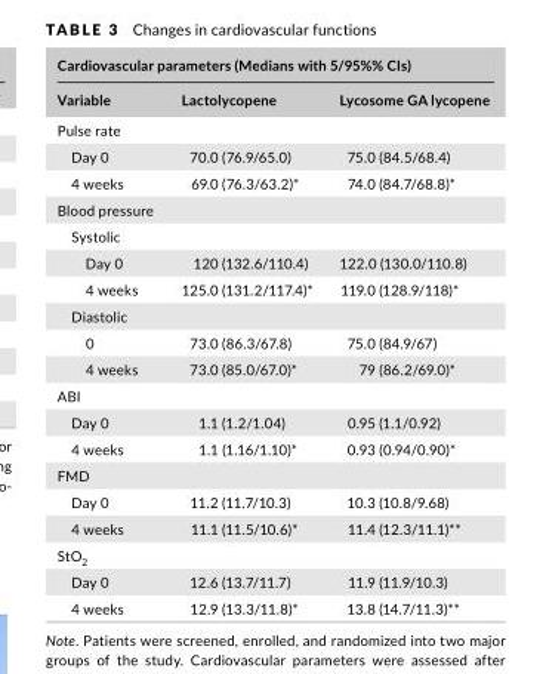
<table><thead><tr><td colspan="3">Cardiovascular parameters (Medians with 5/95%% CIs)</td></tr><tr><td>Variable</td><td>Lactolycopene</td><td>Lycosome GA lycopene</td></tr></thead><tbody><tr><td colspan="3">Pulse rate</td></tr><tr><td>Day 0</td><td>70.0 (76.9/65.0)</td><td>75.0 (84.5/68.4)</td></tr><tr><td>4 weeks</td><td>69.0 (76.3/63.2)*</td><td>74.0 (84.7/68.8)*</td></tr><tr><td colspan="3">Blood pressure</td></tr><tr><td colspan="3">Systolic</td></tr><tr><td>Day 0</td><td>120 (132.6/110.4)</td><td>122.0 (130.0/110.8)</td></tr><tr><td>4 weeks</td><td>125.0 (131.2/117.4)*</td><td>119.0 (128.9/118)*</td></tr><tr><td colspan="3">Diastolic</td></tr><tr><td>0</td><td>73.0 (86.3/67.8)</td><td>75.0 (84.9/67)</td></tr><tr><td>4 weeks</td><td>73.0 (85.0/67.0)*</td><td>79 (86.2/69.0)*</td></tr><tr><td colspan="3">ABI</td></tr><tr><td>Day 0</td><td>1.1 (1.2/1.04)</td><td>0.95 (1.1/0.92)</td></tr><tr><td>4 weeks</td><td>1.1 (1.16/1.10)*</td><td>0.93 (0.94/0.90)*</td></tr><tr><td colspan="3">FMD</td></tr><tr><td>Day 0</td><td>11.2 (11.7/10.3)</td><td>10.3 (10.8/9.68)</td></tr><tr><td>4 weeks</td><td>11.1 (11.5/10.6)*</td><td>11.4 (12.3/11.1)**</td></tr><tr><td colspan="3">StO<sub>2</sub></td></tr><tr><td>Day 0</td><td>12.6 (13.7/11.7)</td><td>11.9 (11.9/10.3)</td></tr><tr><td>4 weeks</td><td>12.9 (13.3/11.8)*</td><td>13.8 (14.7/11.3)**</td></tr></tbody></table>